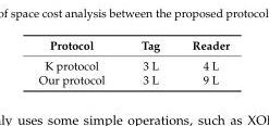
<table><thead><tr><td>Protocol</td><td>Tag</td><td>Reader</td></tr></thead><tbody><tr><td>K protocol</td><td>3 L</td><td>4 L</td></tr><tr><td>Our protocol</td><td>3 L</td><td>9 L</td></tr></tbody></table>